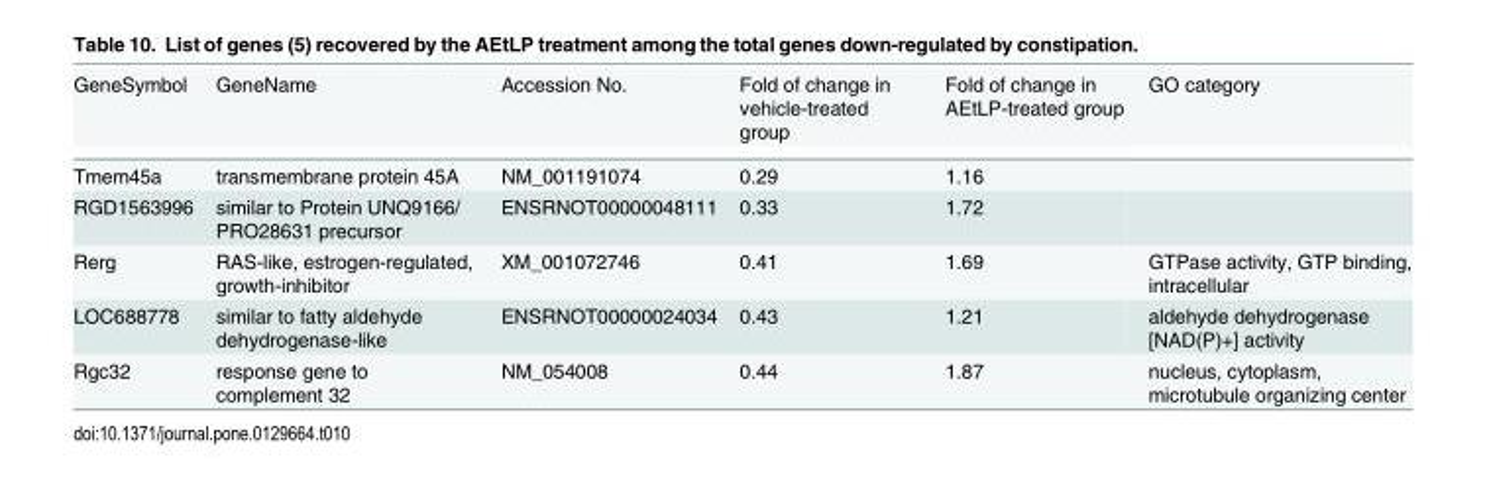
<table><thead><tr><td>GeneSymbol</td><td>GeneName</td><td>Accession No.</td><td>Fold of change in vehicle-treated group</td><td>Fold of change in AEtLP-treated group</td><td>GO category</td></tr></thead><tbody><tr><td>Tmem45a</td><td>transmembrane protein 45A</td><td>NM_001191074</td><td>0.29</td><td>1.16</td><td></td></tr><tr><td>RGD1563996</td><td>similar to Protein UNQ9166/ PRO28631 precursor</td><td>ENSRNOT00000048111</td><td>0.33</td><td>1.72</td><td></td></tr><tr><td>Rerg</td><td>RAS-like, estrogen-regulated, growth-inhibitor</td><td>XM_001072746</td><td>0.41</td><td>1.69</td><td>GTPase activity, GTP binding, intracellular</td></tr><tr><td>LOC688778</td><td>similar to fatty aldehyde dehydrogenase-like</td><td>ENSRNOT00000024034</td><td>0.43</td><td>1.21</td><td>aldehyde dehydrogenase [NAD(P)+] activity</td></tr><tr><td>Rgc32</td><td>response gene to complement 32</td><td>NM_054008</td><td>0.44</td><td>1.87</td><td>nucleus, cytoplasm, microtubule organizing center</td></tr></tbody></table>